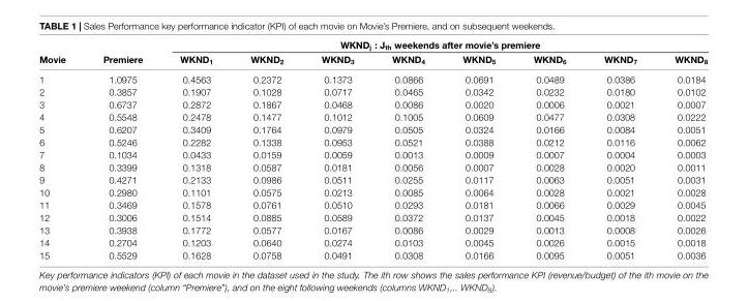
<table><thead><tr><td rowspan="2">Movie</td><td rowspan="2">Premiere</td><td colspan="8">WKND<sub>j</sub> : J<sub>th</sub> weekends after movie’s premiere</td></tr><tr><td>WKND<sub>1</sub></td><td>WKND<sub>2</sub></td><td>WKND<sub>3</sub></td><td>WKND<sub>4</sub></td><td>WKND<sub>5</sub></td><td>WKND<sub>6</sub></td><td>WKND<sub>7</sub></td><td>WKND<sub>8</sub></td></tr></thead><tbody><tr><td>1</td><td>1.0975</td><td>0.4563</td><td>0.2372</td><td>0.1373</td><td>0.0866</td><td>0.0691</td><td>0.0489</td><td>0.0386</td><td>0.0184</td></tr><tr><td>2</td><td>0.3857</td><td>0.1907</td><td>0.1028</td><td>0.0717</td><td>0.0465</td><td>0.0342</td><td>0.0232</td><td>0.0180</td><td>0.0102</td></tr><tr><td>3</td><td>0.6737</td><td>0.2872</td><td>0.1867</td><td>0.0468</td><td>0.0086</td><td>0.0020</td><td>0.0006</td><td>0.0021</td><td>0.0007</td></tr><tr><td>4</td><td>0.5548</td><td>0.2478</td><td>0.1477</td><td>0.1012</td><td>0.1005</td><td>0.0609</td><td>0.0477</td><td>0.0308</td><td>0.0222</td></tr><tr><td>5</td><td>0.6207</td><td>0.3409</td><td>0.1764</td><td>0.0979</td><td>0.0505</td><td>0.0324</td><td>0.0166</td><td>0.0084</td><td>0.0051</td></tr><tr><td>6</td><td>0.5246</td><td>0.2282</td><td>0.1338</td><td>0.0953</td><td>0.0521</td><td>0.0388</td><td>0.0212</td><td>0.0116</td><td>0.0062</td></tr><tr><td>7</td><td>0.1034</td><td>0.0433</td><td>0.0159</td><td>0.0059</td><td>0.0013</td><td>0.0009</td><td>0.0007</td><td>0.0004</td><td>0.0003</td></tr><tr><td>8</td><td>0.3399</td><td>0.1318</td><td>0.0587</td><td>0.0181</td><td>0.0056</td><td>0.0007</td><td>0.0028</td><td>0.0020</td><td>0.0011</td></tr><tr><td>9</td><td>0.4271</td><td>0.2133</td><td>0.0986</td><td>0.0511</td><td>0.0255</td><td>0.0117</td><td>0.0063</td><td>0.0051</td><td>0.0031</td></tr><tr><td>10</td><td>0.2980</td><td>0.1101</td><td>0.0575</td><td>0.0213</td><td>0.0085</td><td>0.0064</td><td>0.0028</td><td>0.0021</td><td>0.0028</td></tr><tr><td>11</td><td>0.3469</td><td>0.1578</td><td>0.0761</td><td>0.0510</td><td>0.0293</td><td>0.0181</td><td>0.0066</td><td>0.0029</td><td>0.0045</td></tr><tr><td>12</td><td>0.3006</td><td>0.1514</td><td>0.0885</td><td>0.0589</td><td>0.0372</td><td>0.0137</td><td>0.0045</td><td>0.0018</td><td>0.0022</td></tr><tr><td>13</td><td>0.3938</td><td>0.1772</td><td>0.0577</td><td>0.0167</td><td>0.0086</td><td>0.0029</td><td>0.0013</td><td>0.0008</td><td>0.0026</td></tr><tr><td>14</td><td>0.2704</td><td>0.1203</td><td>0.0640</td><td>0.0274</td><td>0.0103</td><td>0.0045</td><td>0.0026</td><td>0.0015</td><td>0.0018</td></tr><tr><td>15</td><td>0.5529</td><td>0.1628</td><td>0.0758</td><td>0.0491</td><td>0.0308</td><td>0.0166</td><td>0.0095</td><td>0.0051</td><td>0.0036</td></tr></tbody></table>